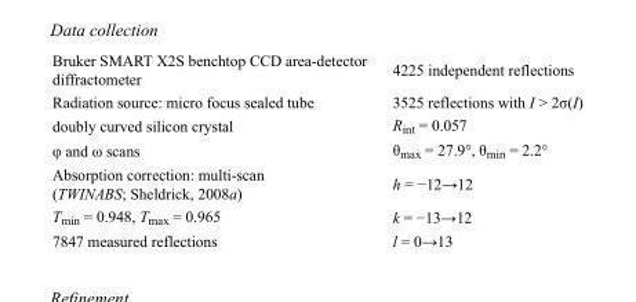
<table><tbody><tr><td>Bruker SMART X2S benchtop CCD area-detector diffractometer</td><td>4225 independent reflections</td></tr><tr><td>Radiation source: micro focus sealed tube</td><td>3525 reflections with I &gt; 2σ(I)</td></tr><tr><td>doubly curved silicon crystal</td><td>R<sub>int</sub> = 0.057</td></tr><tr><td>φ and ω scans</td><td>θ<sub>max</sub> = 27.9°, θ<sub>min</sub> = 2.2°</td></tr><tr><td>Absorption correction: multi-scan (TWINABS; Sheldrick, 2008a)</td><td>h = −12→12</td></tr><tr><td>T<sub>min</sub> = 0.948, T<sub>max</sub> = 0.965</td><td>k = −13→12</td></tr><tr><td>7847 measured reflections</td><td>l = 0→13</td></tr></tbody></table>